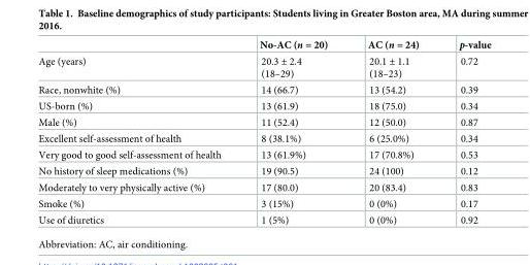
<table><thead><tr><td></td><td>No-AC (n = 20)</td><td>AC (n = 24)</td><td>p-value</td></tr></thead><tbody><tr><td>Age (years)</td><td>20.3 ± 2.4 (18–29)</td><td>20.1 ± 1.1 (18–23)</td><td>0.72</td></tr><tr><td>Race, nonwhite (%)</td><td>14 (66.7)</td><td>13 (54.2)</td><td>0.39</td></tr><tr><td>US-born (%)</td><td>13 (61.9)</td><td>18 (75.0)</td><td>0.34</td></tr><tr><td>Male (%)</td><td>11 (52.4)</td><td>12 (50.0)</td><td>0.87</td></tr><tr><td>Excellent self-assessment of health</td><td>8 (38.1%)</td><td>6 (25.0%)</td><td>0.34</td></tr><tr><td>Very good to good self-assessment of health</td><td>13 (61.9%)</td><td>17 (70.8%)</td><td>0.53</td></tr><tr><td>No history of sleep medications (%)</td><td>19 (90.5)</td><td>24 (100)</td><td>0.12</td></tr><tr><td>Moderately to very physically active (%)</td><td>17 (80.0)</td><td>20 (83.4)</td><td>0.83</td></tr><tr><td>Smoke (%)</td><td>3 (15%)</td><td>0 (0%)</td><td>0.17</td></tr><tr><td>Use of diuretics</td><td>1 (5%)</td><td>0 (0%)</td><td>0.92</td></tr></tbody></table>